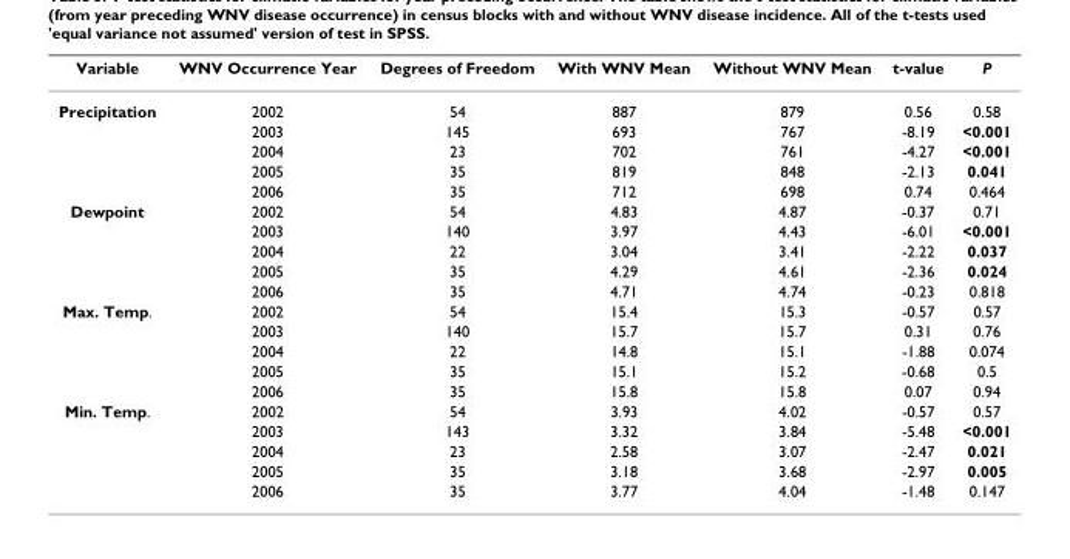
<table><thead><tr><td>Variable</td><td>WNV Occurrence Year</td><td>Degrees of Freedom</td><td>With WNV Mean</td><td>Without WNV Mean</td><td>t-value</td><td>P</td></tr></thead><tbody><tr><td rowspan="5">Precipitation</td><td>2002</td><td>54</td><td>887</td><td>879</td><td>0.56</td><td>0.58</td></tr><tr><td>2003</td><td>145</td><td>693</td><td>767</td><td>-8.19</td><td>&lt;0.001</td></tr><tr><td>2004</td><td>23</td><td>702</td><td>761</td><td>-4.27</td><td>&lt;0.001</td></tr><tr><td>2005</td><td>35</td><td>819</td><td>848</td><td>-2.13</td><td>0.041</td></tr><tr><td>2006</td><td>35</td><td>712</td><td>698</td><td>0.74</td><td>0.464</td></tr><tr><td rowspan="5">Dewpoint</td><td>2002</td><td>54</td><td>4.83</td><td>4.87</td><td>-0.37</td><td>0.71</td></tr><tr><td>2003</td><td>140</td><td>3.97</td><td>4.43</td><td>-6.01</td><td>&lt;0.001</td></tr><tr><td>2004</td><td>22</td><td>3.04</td><td>3.41</td><td>-2.22</td><td>0.037</td></tr><tr><td>2005</td><td>35</td><td>4.29</td><td>4.61</td><td>-2.36</td><td>0.024</td></tr><tr><td>2006</td><td>35</td><td>4.71</td><td>4.74</td><td>-0.23</td><td>0.818</td></tr><tr><td rowspan="5">Max. Temp.</td><td>2002</td><td>54</td><td>15.4</td><td>15.3</td><td>-0.57</td><td>0.57</td></tr><tr><td>2003</td><td>140</td><td>15.7</td><td>15.7</td><td>0.31</td><td>0.76</td></tr><tr><td>2004</td><td>22</td><td>14.8</td><td>15.1</td><td>-1.88</td><td>0.074</td></tr><tr><td>2005</td><td>35</td><td>15.1</td><td>15.2</td><td>-0.68</td><td>0.5</td></tr><tr><td>2006</td><td>35</td><td>15.8</td><td>15.8</td><td>0.07</td><td>0.94</td></tr><tr><td rowspan="5">Min. Temp.</td><td>2002</td><td>54</td><td>3.93</td><td>4.02</td><td>-0.57</td><td>0.57</td></tr><tr><td>2003</td><td>143</td><td>3.32</td><td>3.84</td><td>-5.48</td><td>&lt;0.001</td></tr><tr><td>2004</td><td>23</td><td>2.58</td><td>3.07</td><td>-2.47</td><td>0.021</td></tr><tr><td>2005</td><td>35</td><td>3.18</td><td>3.68</td><td>-2.97</td><td>0.005</td></tr><tr><td>2006</td><td>35</td><td>3.77</td><td>4.04</td><td>-1.48</td><td>0.147</td></tr></tbody></table>